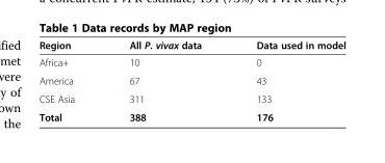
<table><thead><tr><td>Region</td><td>All P. vivax data</td><td>Data used in model</td></tr></thead><tbody><tr><td>Africa+</td><td>10</td><td>0</td></tr><tr><td>America</td><td>67</td><td>43</td></tr><tr><td>CSE Asia</td><td>311</td><td>133</td></tr><tr><td>Total</td><td>388</td><td>176</td></tr></tbody></table>